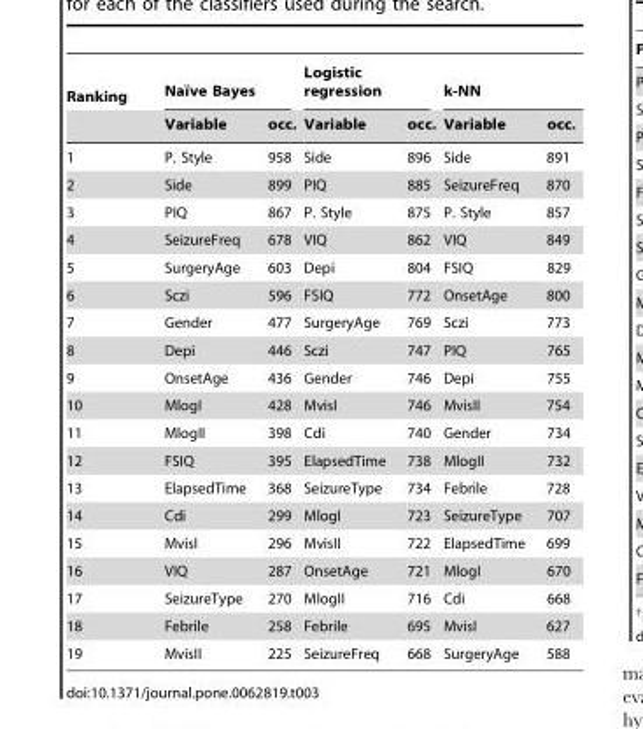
<table><thead><tr><td rowspan="2">Ranking</td><td colspan="2">Naı¨ve Bayes</td><td colspan="2">Logistic regression</td><td colspan="2">k-NN</td></tr><tr><td>Variable</td><td>occ.</td><td>Variable</td><td>occ.</td><td>Variable</td><td>occ.</td></tr></thead><tbody><tr><td>1</td><td>P. Style</td><td>958</td><td>Side</td><td>896</td><td>Side</td><td>891</td></tr><tr><td>2</td><td>Side</td><td>899</td><td>PIQ</td><td>885</td><td>SeizureFreq</td><td>870</td></tr><tr><td>3</td><td>PIQ</td><td>867</td><td>P. Style</td><td>875</td><td>P. Style</td><td>857</td></tr><tr><td>4</td><td>SeizureFreq</td><td>678</td><td>VIQ</td><td>862</td><td>VIQ</td><td>849</td></tr><tr><td>5</td><td>SurgeryAge</td><td>603</td><td>Depi</td><td>804</td><td>FSIQ</td><td>829</td></tr><tr><td>6</td><td>Sczi</td><td>596</td><td>FSIQ</td><td>772</td><td>OnsetAge</td><td>800</td></tr><tr><td>7</td><td>Gender</td><td>477</td><td>SurgeryAge</td><td>769</td><td>Sczi</td><td>773</td></tr><tr><td>8</td><td>Depi</td><td>446</td><td>Sczi</td><td>747</td><td>PIQ</td><td>765</td></tr><tr><td>9</td><td>OnsetAge</td><td>436</td><td>Gender</td><td>746</td><td>Depi</td><td>755</td></tr><tr><td>10</td><td>MlogI</td><td>428</td><td>MvisI</td><td>746</td><td>MvisII</td><td>754</td></tr><tr><td>11</td><td>MlogII</td><td>398</td><td>Cdi</td><td>740</td><td>Gender</td><td>734</td></tr><tr><td>12</td><td>FSIQ</td><td>395</td><td>ElapsedTime</td><td>738</td><td>MlogII</td><td>732</td></tr><tr><td>13</td><td>ElapsedTime</td><td>368</td><td>SeizureType</td><td>734</td><td>Febrile</td><td>728</td></tr><tr><td>14</td><td>Cdi</td><td>299</td><td>MlogI</td><td>723</td><td>SeizureType</td><td>707</td></tr><tr><td>15</td><td>MvisI</td><td>296</td><td>MvisII</td><td>722</td><td>ElapsedTime</td><td>699</td></tr><tr><td>16</td><td>VIQ</td><td>287</td><td>OnsetAge</td><td>721</td><td>MlogI</td><td>670</td></tr><tr><td>17</td><td>SeizureType</td><td>270</td><td>MlogII</td><td>716</td><td>Cdi</td><td>668</td></tr><tr><td>18</td><td>Febrile</td><td>258</td><td>Febrile</td><td>695</td><td>MvisI</td><td>627</td></tr><tr><td>19</td><td>MvisII</td><td>225</td><td>SeizureFreq</td><td>668</td><td>SurgeryAge</td><td>588</td></tr></tbody></table>